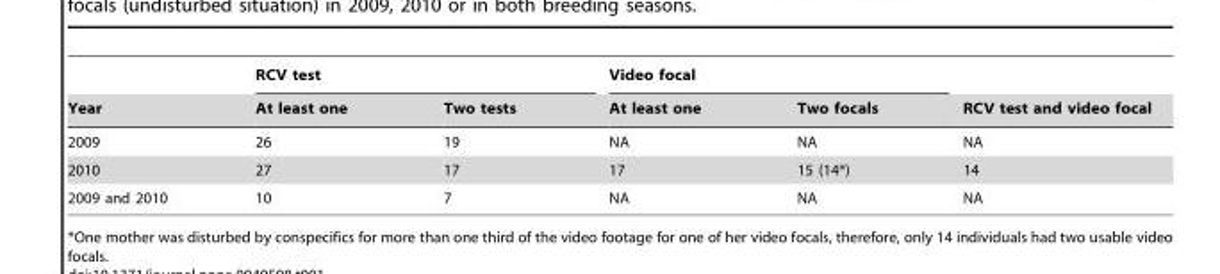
<table><thead><tr><td rowspan="2">Year</td><td colspan="2">RCV test</td><td colspan="2">Video focal</td><td rowspan="2">RCV test and video focal</td></tr><tr><td>At least one</td><td>Two tests</td><td>At least one</td><td>Two focals</td></tr></thead><tbody><tr><td>2009</td><td>26</td><td>19</td><td>NA</td><td>NA</td><td>NA</td></tr><tr><td>2010</td><td>27</td><td>17</td><td>17</td><td>15 (14*)</td><td>14</td></tr><tr><td>2009 and 2010</td><td>10</td><td>7</td><td>NA</td><td>NA</td><td>NA</td></tr></tbody></table>